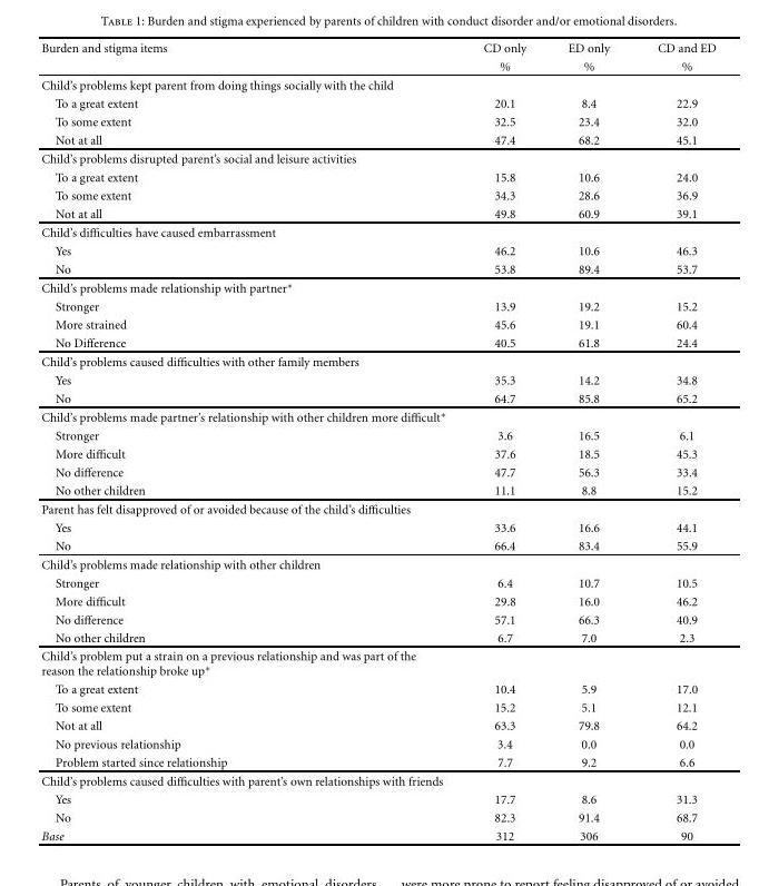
<table><thead><tr><td rowspan="2">Burden and stigma items</td><td rowspan="2">CD only %</td><td rowspan="2">ED only %</td><td rowspan="2">CD and ED %</td></tr><tr></tr></thead><tbody><tr><td colspan="4">Child’s problems kept parent from doing things socially with the child</td></tr><tr><td>To a great extent</td><td>20.1</td><td>8.4</td><td>22.9</td></tr><tr><td>To some extent</td><td>32.5</td><td>23.4</td><td>32.0</td></tr><tr><td>Not at all</td><td>47.4</td><td>68.2</td><td>45.1</td></tr><tr><td colspan="4">Child’s problems disrupted parent’s social and leisure activities</td></tr><tr><td>To a great extent</td><td>15.8</td><td>10.6</td><td>24.0</td></tr><tr><td>To some extent</td><td>34.3</td><td>28.6</td><td>36.9</td></tr><tr><td>Not at all</td><td>49.8</td><td>60.9</td><td>39.1</td></tr><tr><td colspan="4">Child’s difficulties have caused embarrassment</td></tr><tr><td>Yes</td><td>46.2</td><td>10.6</td><td>46.3</td></tr><tr><td>No</td><td>53.8</td><td>89.4</td><td>53.7</td></tr><tr><td colspan="4">Child’s problems made relationship with partner∗</td></tr><tr><td>Stronger</td><td>13.9</td><td>19.2</td><td>15.2</td></tr><tr><td>More strained</td><td>45.6</td><td>19.1</td><td>60.4</td></tr><tr><td>No Difference</td><td>40.5</td><td>61.8</td><td>24.4</td></tr><tr><td colspan="4">Child’s problems caused difficulties with other family members</td></tr><tr><td>Yes</td><td>35.3</td><td>14.2</td><td>34.8</td></tr><tr><td>No</td><td>64.7</td><td>85.8</td><td>65.2</td></tr><tr><td colspan="4">Child’s problems made partner’s relationship with other children more difficult∗</td></tr><tr><td>Stronger</td><td>3.6</td><td>16.5</td><td>6.1</td></tr><tr><td>More difficult</td><td>37.6</td><td>18.5</td><td>45.3</td></tr><tr><td>No difference</td><td>47.7</td><td>56.3</td><td>33.4</td></tr><tr><td>No other children</td><td>11.1</td><td>8.8</td><td>15.2</td></tr><tr><td colspan="4">Parent has felt disapproved of or avoided because of the child’s difficulties</td></tr><tr><td>Yes</td><td>33.6</td><td>16.6</td><td>44.1</td></tr><tr><td>No</td><td>66.4</td><td>83.4</td><td>55.9</td></tr><tr><td colspan="4">Child’s problems made relationship with other children</td></tr><tr><td>Stronger</td><td>6.4</td><td>10.7</td><td>10.5</td></tr><tr><td>More difficult</td><td>29.8</td><td>16.0</td><td>46.2</td></tr><tr><td>No difference</td><td>57.1</td><td>66.3</td><td>40.9</td></tr><tr><td>No other children</td><td>6.7</td><td>7.0</td><td>2.3</td></tr><tr><td colspan="4">Child’s problem put a strain on a previous relationship and was part of the reason the relationship broke up∗</td></tr><tr><td>To a great extent</td><td>10.4</td><td>5.9</td><td>17.0</td></tr><tr><td>To some extent</td><td>15.2</td><td>5.1</td><td>12.1</td></tr><tr><td>Not at all</td><td>63.3</td><td>79.8</td><td>64.2</td></tr><tr><td>No previous relationship</td><td>3.4</td><td>0.0</td><td>0.0</td></tr><tr><td>Problem started since relationship</td><td>7.7</td><td>9.2</td><td>6.6</td></tr><tr><td colspan="4">Child’s problems caused difficulties with parent’s own relationships with friends</td></tr><tr><td>Yes</td><td>17.7</td><td>8.6</td><td>31.3</td></tr><tr><td>No</td><td>82.3</td><td>91.4</td><td>68.7</td></tr><tr><td>Base</td><td>312</td><td>306</td><td>90</td></tr></tbody></table>